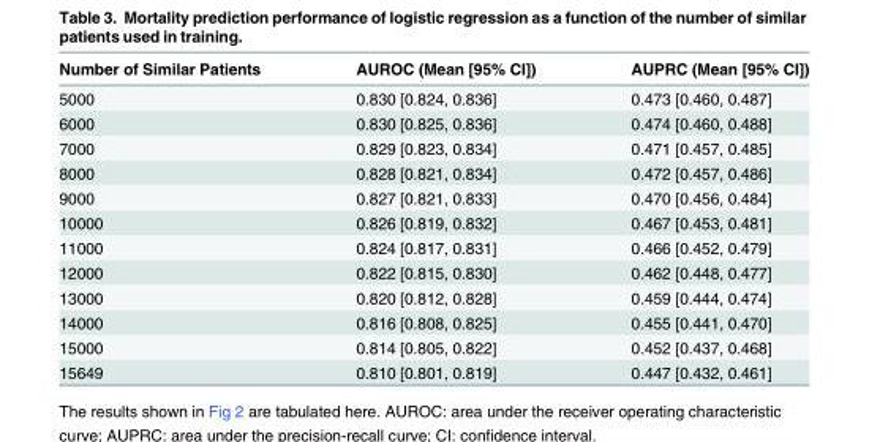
<table><thead><tr><td>Number of Similar Patients</td><td>AUROC (Mean [95% CI])</td><td>AUPRC (Mean [95% CI])</td></tr></thead><tbody><tr><td>5000</td><td>0.830 [0.824, 0.836]</td><td>0.473 [0.460, 0.487]</td></tr><tr><td>6000</td><td>0.830 [0.825, 0.836]</td><td>0.474 [0.460, 0.488]</td></tr><tr><td>7000</td><td>0.829 [0.823, 0.834]</td><td>0.471 [0.457, 0.485]</td></tr><tr><td>8000</td><td>0.828 [0.821, 0.834]</td><td>0.472 [0.457, 0.486]</td></tr><tr><td>9000</td><td>0.827 [0.821, 0.833]</td><td>0.470 [0.456, 0.484]</td></tr><tr><td>10000</td><td>0.826 [0.819, 0.832]</td><td>0.467 [0.453, 0.481]</td></tr><tr><td>11000</td><td>0.824 [0.817, 0.831]</td><td>0.466 [0.452, 0.479]</td></tr><tr><td>12000</td><td>0.822 [0.815, 0.830]</td><td>0.462 [0.448, 0.477]</td></tr><tr><td>13000</td><td>0.820 [0.812, 0.828]</td><td>0.459 [0.444, 0.474]</td></tr><tr><td>14000</td><td>0.816 [0.808, 0.825]</td><td>0.455 [0.441, 0.470]</td></tr><tr><td>15000</td><td>0.814 [0.805, 0.822]</td><td>0.452 [0.437, 0.468]</td></tr><tr><td>15649</td><td>0.810 [0.801, 0.819]</td><td>0.447 [0.432, 0.461]</td></tr></tbody></table>